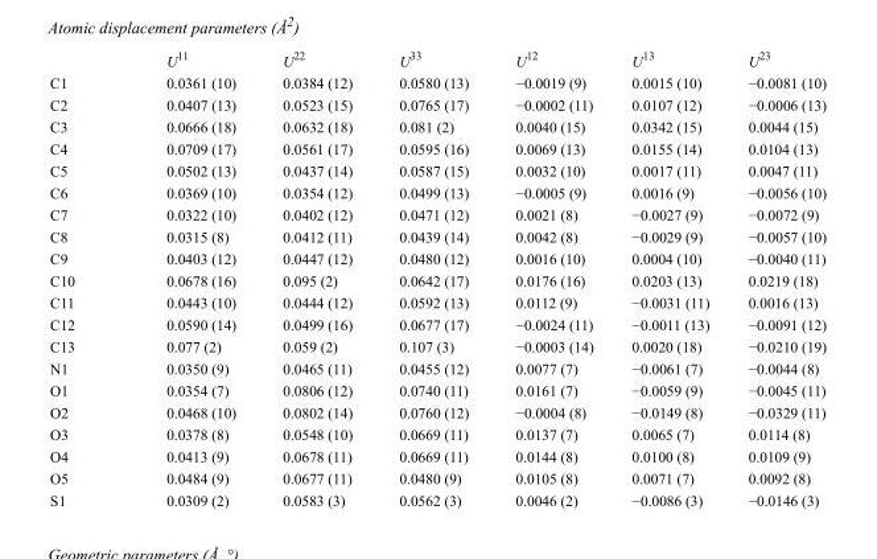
<table><thead><tr><td></td><td>U<sup>11</sup></td><td>U<sup>22</sup></td><td>U<sup>33</sup></td><td>U<sup>12</sup></td><td>U<sup>13</sup></td><td>U<sup>23</sup></td></tr></thead><tbody><tr><td>C1</td><td>0.0361 (10)</td><td>0.0384 (12)</td><td>0.0580 (13)</td><td>−0.0019 (9)</td><td>0.0015 (10)</td><td>−0.0081 (10)</td></tr><tr><td>C2</td><td>0.0407 (13)</td><td>0.0523 (15)</td><td>0.0765 (17)</td><td>−0.0002 (11)</td><td>0.0107 (12)</td><td>−0.0006 (13)</td></tr><tr><td>C3</td><td>0.0666 (18)</td><td>0.0632 (18)</td><td>0.081 (2)</td><td>0.0040 (15)</td><td>0.0342 (15)</td><td>0.0044 (15)</td></tr><tr><td>C4</td><td>0.0709 (17)</td><td>0.0561 (17)</td><td>0.0595 (16)</td><td>0.0069 (13)</td><td>0.0155 (14)</td><td>0.0104 (13)</td></tr><tr><td>C5</td><td>0.0502 (13)</td><td>0.0437 (14)</td><td>0.0587 (15)</td><td>0.0032 (10)</td><td>0.0017 (11)</td><td>0.0047 (11)</td></tr><tr><td>C6</td><td>0.0369 (10)</td><td>0.0354 (12)</td><td>0.0499 (13)</td><td>−0.0005 (9)</td><td>0.0016 (9)</td><td>−0.0056 (10)</td></tr><tr><td>C7</td><td>0.0322 (10)</td><td>0.0402 (12)</td><td>0.0471 (12)</td><td>0.0021 (8)</td><td>−0.0027 (9)</td><td>−0.0072 (9)</td></tr><tr><td>C8</td><td>0.0315 (8)</td><td>0.0412 (11)</td><td>0.0439 (14)</td><td>0.0042 (8)</td><td>−0.0029 (9)</td><td>−0.0057 (10)</td></tr><tr><td>C9</td><td>0.0403 (12)</td><td>0.0447 (12)</td><td>0.0480 (12)</td><td>0.0016 (10)</td><td>0.0004 (10)</td><td>−0.0040 (11)</td></tr><tr><td>C10</td><td>0.0678 (16)</td><td>0.095 (2)</td><td>0.0642 (17)</td><td>0.0176 (16)</td><td>0.0203 (13)</td><td>0.0219 (18)</td></tr><tr><td>C11</td><td>0.0443 (10)</td><td>0.0444 (12)</td><td>0.0592 (13)</td><td>0.0112 (9)</td><td>−0.0031 (11)</td><td>0.0016 (13)</td></tr><tr><td>C12</td><td>0.0590 (14)</td><td>0.0499 (16)</td><td>0.0677 (17)</td><td>−0.0024 (11)</td><td>−0.0011 (13)</td><td>−0.0091 (12)</td></tr><tr><td>C13</td><td>0.077 (2)</td><td>0.059 (2)</td><td>0.107 (3)</td><td>−0.0003 (14)</td><td>0.0020 (18)</td><td>−0.0210 (19)</td></tr><tr><td>N1</td><td>0.0350 (9)</td><td>0.0465 (11)</td><td>0.0455 (12)</td><td>0.0077 (7)</td><td>−0.0061 (7)</td><td>−0.0044 (8)</td></tr><tr><td>O1</td><td>0.0354 (7)</td><td>0.0806 (12)</td><td>0.0740 (11)</td><td>0.0161 (7)</td><td>−0.0059 (9)</td><td>−0.0045 (11)</td></tr><tr><td>O2</td><td>0.0468 (10)</td><td>0.0802 (14)</td><td>0.0760 (12)</td><td>−0.0004 (8)</td><td>−0.0149 (8)</td><td>−0.0329 (11)</td></tr><tr><td>O3</td><td>0.0378 (8)</td><td>0.0548 (10)</td><td>0.0669 (11)</td><td>0.0137 (7)</td><td>0.0065 (7)</td><td>0.0114 (8)</td></tr><tr><td>O4</td><td>0.0413 (9)</td><td>0.0678 (11)</td><td>0.0669 (11)</td><td>0.0144 (8)</td><td>0.0100 (8)</td><td>0.0109 (9)</td></tr><tr><td>O5</td><td>0.0484 (9)</td><td>0.0677 (11)</td><td>0.0480 (9)</td><td>0.0105 (8)</td><td>0.0071 (7)</td><td>0.0092 (8)</td></tr><tr><td>S1</td><td>0.0309 (2)</td><td>0.0583 (3)</td><td>0.0562 (3)</td><td>0.0046 (2)</td><td>−0.0086 (3)</td><td>−0.0146 (3)</td></tr></tbody></table>